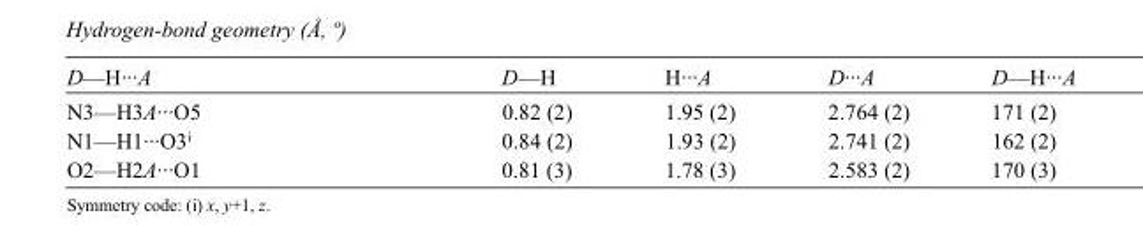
<table><tbody><tr><td>D—H···A</td><td>D—H</td><td>H···A</td><td>D···A</td><td>D—H···A</td></tr><tr><td>N3—H3A···O5</td><td>0.82 (2)</td><td>1.95 (2)</td><td>2.764 (2)</td><td>171 (2)</td></tr><tr><td>N1—H1···O3<sup>i</sup></td><td>0.84 (2)</td><td>1.93 (2)</td><td>2.741 (2)</td><td>162 (2)</td></tr><tr><td>O2—H2A···O1</td><td>0.81 (3)</td><td>1.78 (3)</td><td>2.583 (2)</td><td>170 (3)</td></tr></tbody></table>